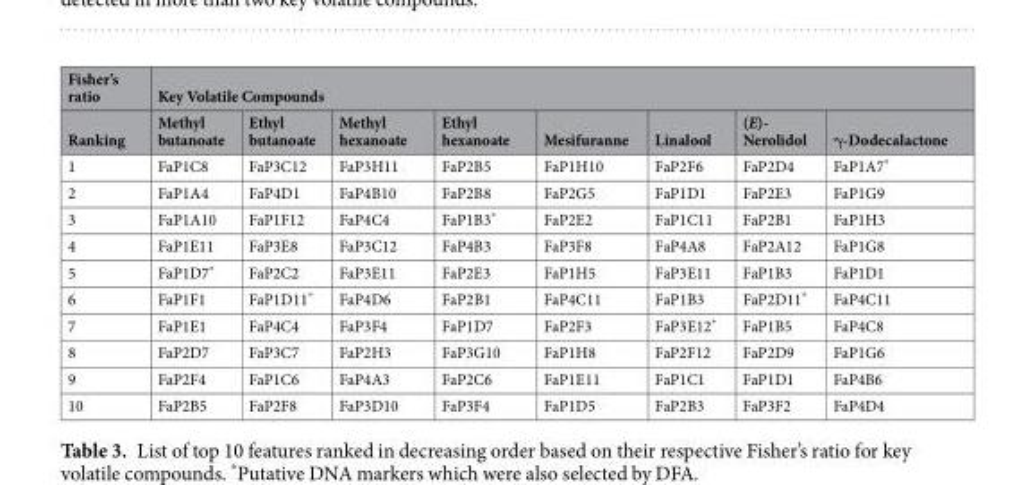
<table><thead><tr><td rowspan="2">Fisher’s ratio Ranking</td><td colspan="8">Key Volatile Compounds</td></tr><tr><td>Methyl butanoate</td><td>Ethyl butanoate</td><td>Methyl hexanoate</td><td>Ethyl hexanoate</td><td>Mesifuranne</td><td>Linalool</td><td>(E)- Nerolidol</td><td>γ-Dodecalactone</td></tr></thead><tbody><tr><td>1</td><td>FaP1C8</td><td>FaP3C12</td><td>FaP3H11</td><td>FaP2B5</td><td>FaP1H10</td><td>FaP2F6</td><td>FaP2D4</td><td>FaP1A7*</td></tr><tr><td>2</td><td>FaP1A4</td><td>FaP4D1</td><td>FaP4B10</td><td>FaP2B8</td><td>FaP2G5</td><td>FaP1D1</td><td>FaP2E3</td><td>FaP1G9</td></tr><tr><td>3</td><td>FaP1A10</td><td>FaP1F12</td><td>FaP4C4</td><td>FaP1B3*</td><td>FaP2E2</td><td>FaP1C11</td><td>FaP2B1</td><td>FaP1H3</td></tr><tr><td>4</td><td>FaP1E11</td><td>FaP3E8</td><td>FaP3C12</td><td>FaP4B3</td><td>FaP3F8</td><td>FaP4A8</td><td>FaP2A12</td><td>FaP1G8</td></tr><tr><td>5</td><td>FaP1D7*</td><td>FaP2C2</td><td>FaP3E11</td><td>FaP2E3</td><td>FaP1H5</td><td>FaP3E11</td><td>FaP1B3</td><td>FaP1D1</td></tr><tr><td>6</td><td>FaP1F1</td><td>FaP1D11*</td><td>FaP4D6</td><td>FaP2B1</td><td>FaP4C11</td><td>FaP1B3</td><td>FaP2D11*</td><td>FaP4C11</td></tr><tr><td>7</td><td>FaP1E1</td><td>FaP4C4</td><td>FaP3F4</td><td>FaP1D7</td><td>FaP2F3</td><td>FaP3E12*</td><td>FaP1B5</td><td>FaP4C8</td></tr><tr><td>8</td><td>FaP2D7</td><td>FaP3C7</td><td>FaP2H3</td><td>FaP3G10</td><td>FaP1H8</td><td>FaP2F12</td><td>FaP2D9</td><td>FaP1G6</td></tr><tr><td>9</td><td>FaP2F4</td><td>FaP1C6</td><td>FaP4A3</td><td>FaP2C6</td><td>FaP1E11</td><td>FaP1C1</td><td>FaP1D1</td><td>FaP4B6</td></tr><tr><td>10</td><td>FaP2B5</td><td>FaP2F8</td><td>FaP3D10</td><td>FaP3F4</td><td>FaP1D5</td><td>FaP2B3</td><td>FaP3F2</td><td>FaP4D4</td></tr></tbody></table>